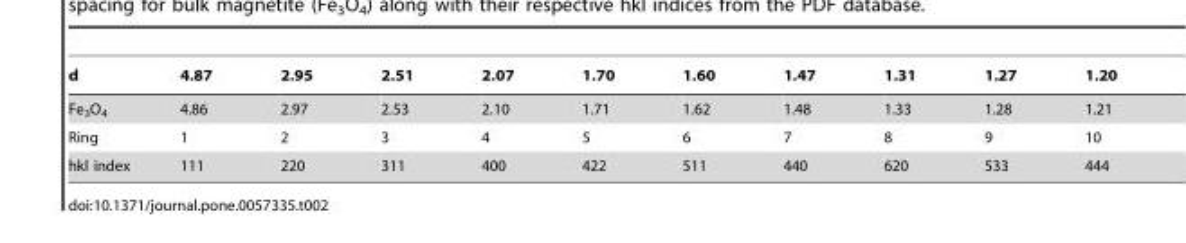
<table><thead><tr><td>d</td><td>4.87</td><td>2.95</td><td>2.51</td><td>2.07</td><td>1.70</td><td>1.60</td><td>1.47</td><td>1.31</td><td>1.27</td><td>1.20</td></tr></thead><tbody><tr><td>Fe<sub>3</sub>O<sub>4</sub></td><td>4.86</td><td>2.97</td><td>2.53</td><td>2.10</td><td>1.71</td><td>1.62</td><td>1.48</td><td>1.33</td><td>1.28</td><td>1.21</td></tr><tr><td>Ring</td><td>1</td><td>2</td><td>3</td><td>4</td><td>5</td><td>6</td><td>7</td><td>8</td><td>9</td><td>10</td></tr><tr><td>hkl index</td><td>111</td><td>220</td><td>311</td><td>400</td><td>422</td><td>511</td><td>440</td><td>620</td><td>533</td><td>444</td></tr></tbody></table>